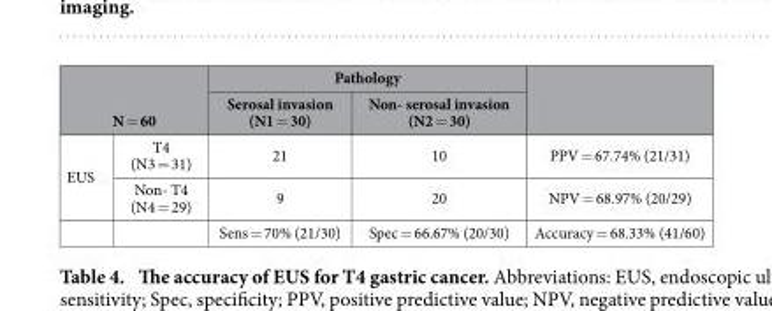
<table><thead><tr><td></td><td></td><td colspan="2">Pathology</td><td rowspan="2"></td></tr><tr><td colspan="2">N = 60</td><td>Serosal invasion (N1 = 30)</td><td>Non- serosal invasion (N2 = 30)</td></tr></thead><tbody><tr><td rowspan="3">EUS</td><td>T4 (N3 = 31)</td><td>21</td><td>10</td><td>PPV = 67.74% (21/31)</td></tr><tr><td>Non- T4 (N4 = 29)</td><td>9</td><td>20</td><td>NPV = 68.97% (20/29)</td></tr><tr><td></td><td>Sens = 70% (21/30)</td><td>Spec = 66.67% (20/30)</td><td>Accuracy = 68.33% (41/60)</td></tr></tbody></table>